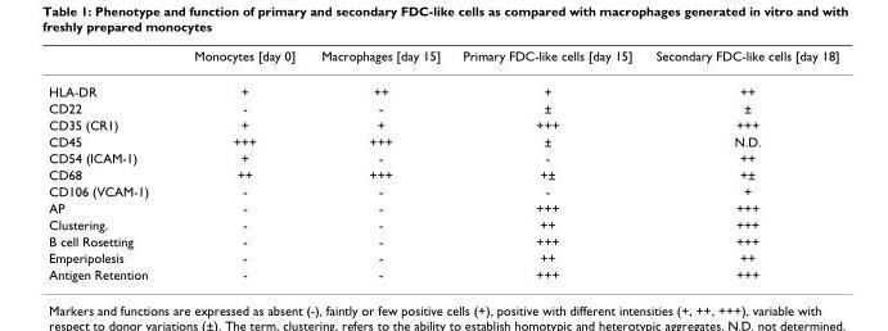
<table><thead><tr><td></td><td>Monocytes [day 0]</td><td>Macrophages [day 15]</td><td>Primary FDC-like cells [day 15]</td><td>Secondary FDC-like cells [day 18]</td></tr></thead><tbody><tr><td>HLA-DR</td><td>+</td><td>++</td><td>+</td><td>++</td></tr><tr><td>CD22</td><td>-</td><td>-</td><td>±</td><td>±</td></tr><tr><td>CD35 (CR1)</td><td>+</td><td>+</td><td>+++</td><td>+++</td></tr><tr><td>CD45</td><td>+++</td><td>+++</td><td>±</td><td>N.D.</td></tr><tr><td>CD54 (ICAM-1)</td><td>+</td><td>-</td><td>-</td><td>++</td></tr><tr><td>CD68</td><td>++</td><td>+++</td><td>+±</td><td>+±</td></tr><tr><td>CD106 (VCAM-1)</td><td>-</td><td>-</td><td>-</td><td>+</td></tr><tr><td>AP</td><td>-</td><td>-</td><td>+++</td><td>+++</td></tr><tr><td>Clustering.</td><td>-</td><td>-</td><td>++</td><td>+++</td></tr><tr><td>B cell Rosetting</td><td>-</td><td>-</td><td>+++</td><td>+++</td></tr><tr><td>Emperipolesis</td><td>-</td><td>-</td><td>++</td><td>++</td></tr><tr><td>Antigen Retention</td><td>-</td><td>-</td><td>+++</td><td>+++</td></tr></tbody></table>